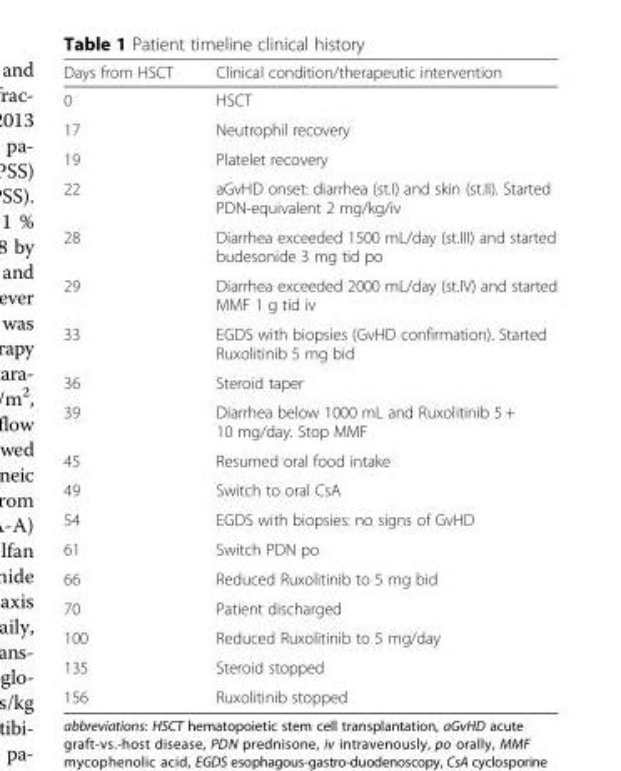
<table><thead><tr><td>Days from HSCT</td><td>Clinical condition/therapeutic intervention</td></tr></thead><tbody><tr><td>0</td><td>HSCT</td></tr><tr><td>17</td><td>Neutrophil recovery</td></tr><tr><td>19</td><td>Platelet recovery</td></tr><tr><td>22</td><td>aGvHD onset: diarrhea (st.I) and skin (st.II). Started PDN-equivalent 2 mg/kg/iv</td></tr><tr><td>28</td><td>Diarrhea exceeded 1500 mL/day (st.III) and started budesonide 3 mg tid po</td></tr><tr><td>29</td><td>Diarrhea exceeded 2000 mL/day (st.IV) and started MMF 1 g tid iv</td></tr><tr><td>33</td><td>EGDS with biopsies (GvHD confirmation). Started Ruxolitinib 5 mg bid</td></tr><tr><td>36</td><td>Steroid taper</td></tr><tr><td>39</td><td>Diarrhea below 1000 mL and Ruxolitinib 5 + 10 mg/day. Stop MMF</td></tr><tr><td>45</td><td>Resumed oral food intake</td></tr><tr><td>49</td><td>Switch to oral CsA</td></tr><tr><td>54</td><td>EGDS with biopsies: no signs of GvHD</td></tr><tr><td>61</td><td>Switch PDN po</td></tr><tr><td>66</td><td>Reduced Ruxolitinib to 5 mg bid</td></tr><tr><td>70</td><td>Patient discharged</td></tr><tr><td>100</td><td>Reduced Ruxolitinib to 5 mg/day</td></tr><tr><td>135</td><td>Steroid stopped</td></tr><tr><td>156</td><td>Ruxolitinib stopped</td></tr></tbody></table>